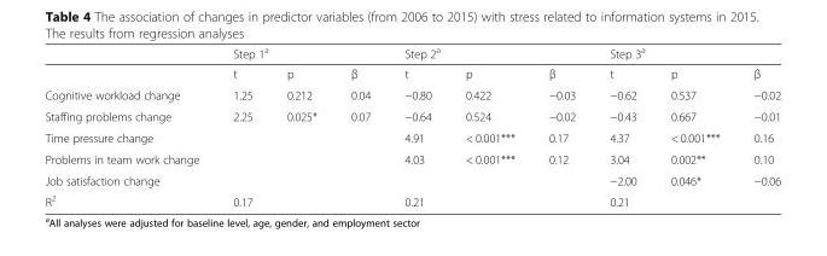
<table><thead><tr><td rowspan="2"></td><td colspan="3">Step 1<sup>a</sup></td><td colspan="3">Step 2<sup>a</sup></td><td colspan="3">Step 3<sup>a</sup></td></tr><tr><td>t</td><td>p</td><td>β</td><td>t</td><td>p</td><td>β</td><td>t</td><td>p</td><td>β</td></tr></thead><tbody><tr><td>Cognitive workload change</td><td>1.25</td><td>0.212</td><td>0.04</td><td>−0.80</td><td>0.422</td><td>−0.03</td><td>−0.62</td><td>0.537</td><td>−0.02</td></tr><tr><td>Staffing problems change</td><td>2.25</td><td>0.025*</td><td>0.07</td><td>−0.64</td><td>0.524</td><td>−0.02</td><td>−0.43</td><td>0.667</td><td>−0.01</td></tr><tr><td>Time pressure change</td><td></td><td></td><td></td><td>4.91</td><td>&lt; 0.001***</td><td>0.17</td><td>4.37</td><td>&lt; 0.001***</td><td>0.16</td></tr><tr><td>Problems in team work change</td><td></td><td></td><td></td><td>4.03</td><td>&lt; 0.001***</td><td>0.12</td><td>3.04</td><td>0.002**</td><td>0.10</td></tr><tr><td>Job satisfaction change</td><td></td><td></td><td></td><td></td><td></td><td></td><td>−2.00</td><td>0.046*</td><td>−0.06</td></tr><tr><td>R<sup>2</sup></td><td>0.17</td><td></td><td></td><td>0.21</td><td></td><td></td><td>0.21</td><td></td><td></td></tr></tbody></table>